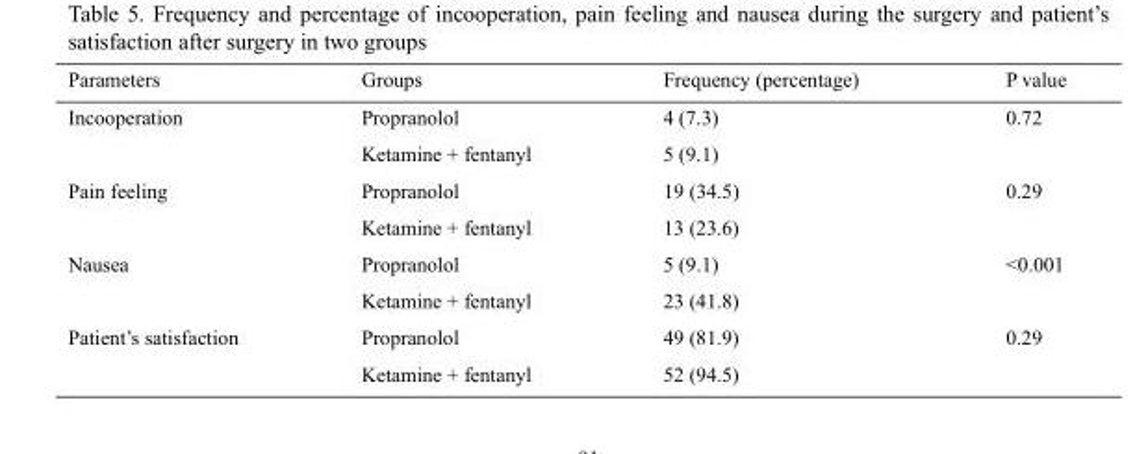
<table><thead><tr><td>Parameters</td><td>Groups</td><td>Frequency (percentage)</td><td>P value</td></tr></thead><tbody><tr><td rowspan="2">Incooperation</td><td>Propranolol</td><td>4 (7.3)</td><td>0.72</td></tr><tr><td>Ketamine + fentanyl</td><td>5 (9.1)</td><td></td></tr><tr><td rowspan="2">Pain feeling</td><td>Propranolol</td><td>19 (34.5)</td><td>0.29</td></tr><tr><td>Ketamine + fentanyl</td><td>13 (23.6)</td><td></td></tr><tr><td rowspan="2">Nausea</td><td>Propranolol</td><td>5 (9.1)</td><td>&lt;0.001</td></tr><tr><td>Ketamine + fentanyl</td><td>23 (41.8)</td><td></td></tr><tr><td rowspan="2">Patient’s satisfaction</td><td>Propranolol</td><td>49 (81.9)</td><td>0.29</td></tr><tr><td>Ketamine + fentanyl</td><td>52 (94.5)</td><td></td></tr></tbody></table>